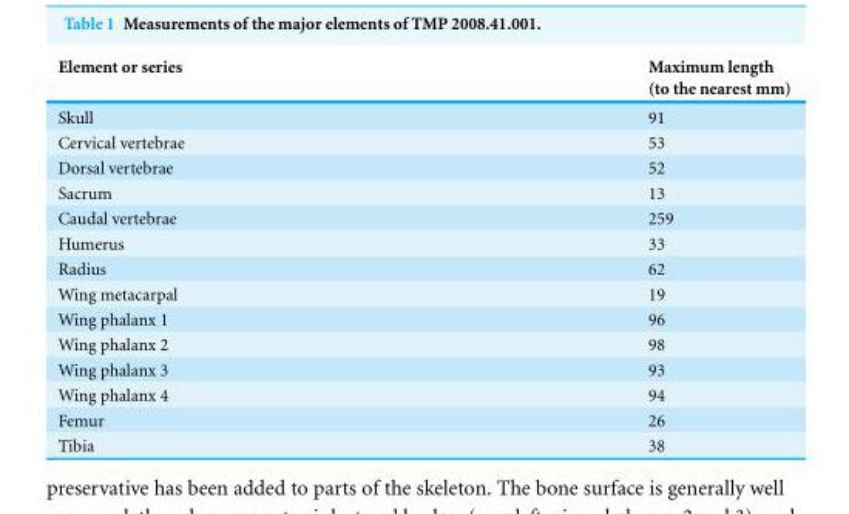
<table><thead><tr><td>Element or series</td><td>Maximum length (to the nearest mm)</td></tr></thead><tbody><tr><td>Skull</td><td>91</td></tr><tr><td>Cervical vertebrae</td><td>53</td></tr><tr><td>Dorsal vertebrae</td><td>52</td></tr><tr><td>Sacrum</td><td>13</td></tr><tr><td>Caudal vertebrae</td><td>259</td></tr><tr><td>Humerus</td><td>33</td></tr><tr><td>Radius</td><td>62</td></tr><tr><td>Wing metacarpal</td><td>19</td></tr><tr><td>Wing phalanx 1</td><td>96</td></tr><tr><td>Wing phalanx 2</td><td>98</td></tr><tr><td>Wing phalanx 3</td><td>93</td></tr><tr><td>Wing phalanx 4</td><td>94</td></tr><tr><td>Femur</td><td>26</td></tr><tr><td>Tibia</td><td>38</td></tr></tbody></table>